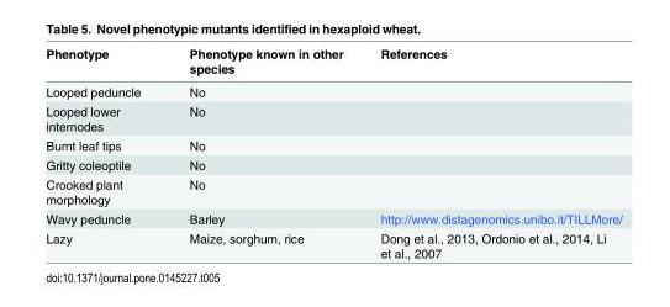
<table><thead><tr><td>Phenotype</td><td>Phenotype known in other species</td><td>References</td></tr></thead><tbody><tr><td>Looped peduncle</td><td>No</td><td></td></tr><tr><td>Looped lower internodes</td><td>No</td><td></td></tr><tr><td>Burnt leaf tips</td><td>No</td><td></td></tr><tr><td>Gritty coleoptile</td><td>No</td><td></td></tr><tr><td>Crooked plant morphology</td><td>No</td><td></td></tr><tr><td>Wavy peduncle</td><td>Barley</td><td>http://www.distagenomics.unibo.it/TILLMore/</td></tr><tr><td>Lazy</td><td>Maize, sorghum, rice</td><td>Dong et al., 2013, Ordonio et al., 2014, Li et al., 2007</td></tr></tbody></table>